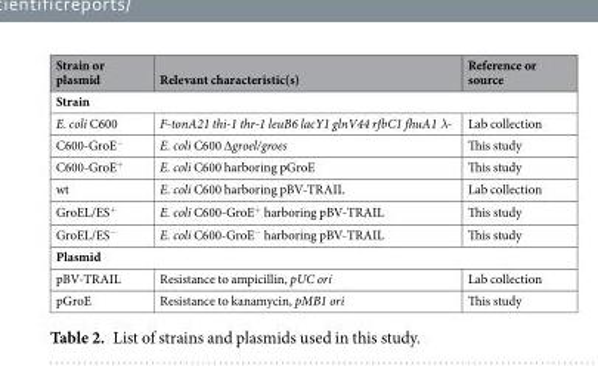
<table><thead><tr><td>Strain or plasmid</td><td>Relevant characteristic(s)</td><td>Reference or source</td></tr></thead><tbody><tr><td colspan="3">Strain</td></tr><tr><td>E. coli C600</td><td>F-tonA21 thi-1 thr-1 leuB6 lacY1 glnV44 rfbC1 fhuA1 λ-</td><td>Lab collection</td></tr><tr><td>C600-GroE<sup>−</sup></td><td>E. coli C600 ∆groel/groes</td><td>This study</td></tr><tr><td>C600-GroE<sup>+</sup></td><td>E. coli C600 harboring pGroE</td><td>This study</td></tr><tr><td>wt</td><td>E. coli C600 harboring pBV-TRAIL</td><td>Lab collection</td></tr><tr><td>GroEL/ES<sup>+</sup></td><td>E. coli C600-GroE<sup>+</sup> harboring pBV-TRAIL</td><td>This study</td></tr><tr><td>GroEL/ES<sup>−</sup></td><td>E. coli C600-GroE<sup>−</sup> harboring pBV-TRAIL</td><td>This study</td></tr><tr><td colspan="3">Plasmid</td></tr><tr><td>pBV-TRAIL</td><td>Resistance to ampicillin, pUC ori</td><td>Lab collection</td></tr><tr><td>pGroE</td><td>Resistance to kanamycin, pMB1 ori</td><td>This study</td></tr></tbody></table>